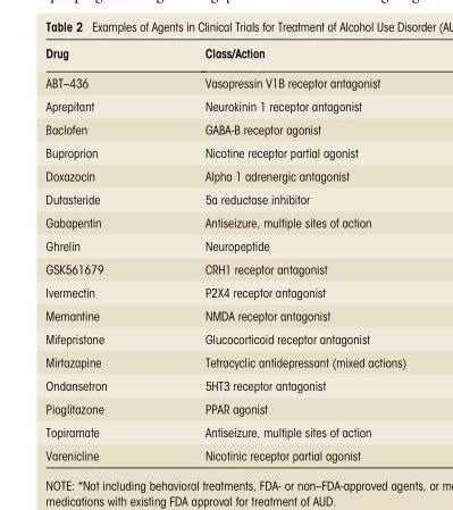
<table><thead><tr><td>Drug</td><td>Class/Action</td></tr></thead><tbody><tr><td>ABT–436</td><td>Vasopressin V1B receptor antagonist</td></tr><tr><td>Aprepitant</td><td>Neurokinin 1 receptor antagonist</td></tr><tr><td>Baclofen</td><td>GABA-B receptor agonist</td></tr><tr><td>Buproprion</td><td>Nicotine receptor partial agonist</td></tr><tr><td>Doxazocin</td><td>Alpha 1 adrenergic antagonist</td></tr><tr><td>Dutasteride</td><td>5a reductase inhibitor</td></tr><tr><td>Gabapentin</td><td>Antiseizure, multiple sites of action</td></tr><tr><td>Ghrelin</td><td>Neuropeptide</td></tr><tr><td>GSK561679</td><td>CRH1 receptor antagonist</td></tr><tr><td>Ivermectin</td><td>P2X4 receptor antagonist</td></tr><tr><td>Memantine</td><td>NMDA receptor antagonist</td></tr><tr><td>Mifepristone</td><td>Glucocorticoid receptor antagonist</td></tr><tr><td>Mirtazapine</td><td>Tetracyclic antidepressant (mixed actions)</td></tr><tr><td>Ondansetron</td><td>5HT3 receptor antagonist</td></tr><tr><td>Pioglitazone</td><td>PPAR agonist</td></tr><tr><td>Topiramate</td><td>Antiseizure, multiple sites of action</td></tr><tr><td>Varenicline</td><td>Nicotinic receptor partial agonist</td></tr></tbody></table>